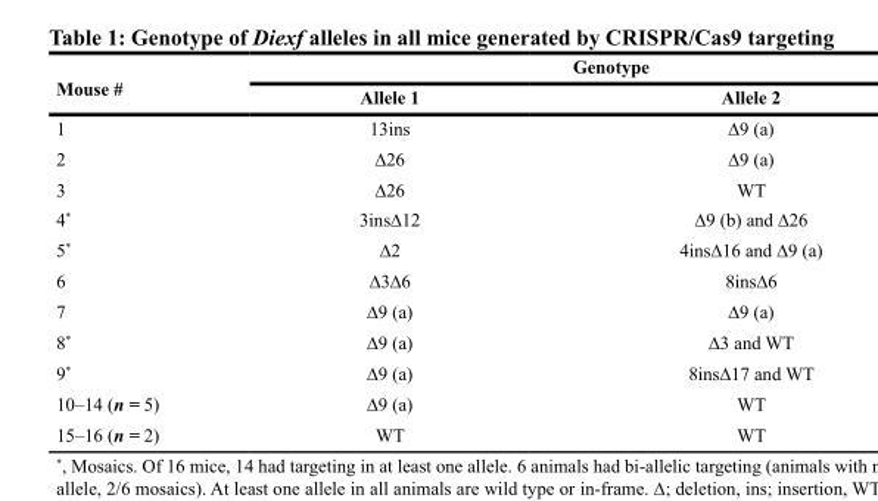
<table><thead><tr><td rowspan="2">Mouse #</td><td colspan="2">Genotype</td></tr><tr><td>Allele 1</td><td>Allele 2</td></tr></thead><tbody><tr><td>1</td><td>13ins</td><td>∆9 (a)</td></tr><tr><td>2</td><td>∆26</td><td>∆9 (a)</td></tr><tr><td>3</td><td>∆26</td><td>WT</td></tr><tr><td>4*</td><td>3ins∆12</td><td>∆9 (b) and ∆26</td></tr><tr><td>5*</td><td>∆2</td><td>4ins∆16 and ∆9 (a)</td></tr><tr><td>6</td><td>∆3∆6</td><td>8ins∆6</td></tr><tr><td>7</td><td>∆9 (a)</td><td>∆9 (a)</td></tr><tr><td>8*</td><td>∆9 (a)</td><td>∆3 and WT</td></tr><tr><td>9*</td><td>∆9 (a)</td><td>8ins∆17 and WT</td></tr><tr><td>10–14 (n = 5)</td><td>∆9 (a)</td><td>WT</td></tr><tr><td>15–16 (n = 2)</td><td>WT</td><td>WT</td></tr></tbody></table>